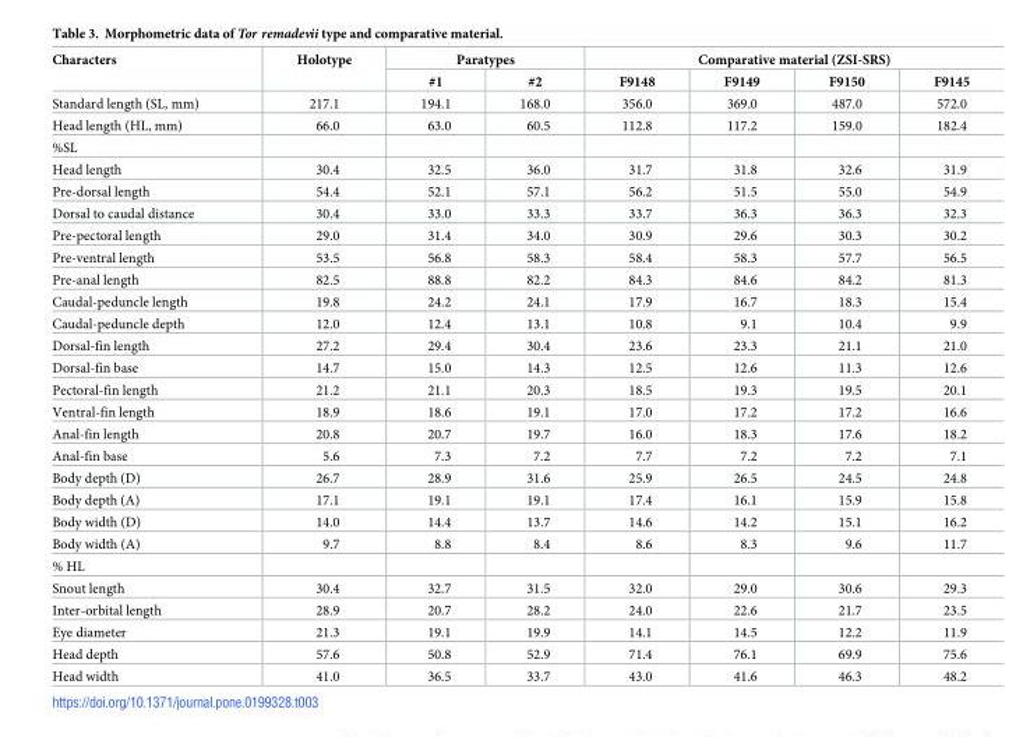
<table><thead><tr><td rowspan="2">Characters</td><td rowspan="2">Holotype</td><td colspan="2">Paratypes</td><td colspan="4">Comparative material (ZSI-SRS)</td></tr><tr><td>#1</td><td>#2</td><td>F9148</td><td>F9149</td><td>F9150</td><td>F9145</td></tr></thead><tbody><tr><td>Standard length (SL, mm)</td><td>217.1</td><td>194.1</td><td>168.0</td><td>356.0</td><td>369.0</td><td>487.0</td><td>572.0</td></tr><tr><td>Head length (HL, mm)</td><td>66.0</td><td>63.0</td><td>60.5</td><td>112.8</td><td>117.2</td><td>159.0</td><td>182.4</td></tr><tr><td colspan="8">%SL</td></tr><tr><td>Head length</td><td>30.4</td><td>32.5</td><td>36.0</td><td>31.7</td><td>31.8</td><td>32.6</td><td>31.9</td></tr><tr><td>Pre-dorsal length</td><td>54.4</td><td>52.1</td><td>57.1</td><td>56.2</td><td>51.5</td><td>55.0</td><td>54.9</td></tr><tr><td>Dorsal to caudal distance</td><td>30.4</td><td>33.0</td><td>33.3</td><td>33.7</td><td>36.3</td><td>36.3</td><td>32.3</td></tr><tr><td>Pre-pectoral length</td><td>29.0</td><td>31.4</td><td>34.0</td><td>30.9</td><td>29.6</td><td>30.3</td><td>30.2</td></tr><tr><td>Pre-ventral length</td><td>53.5</td><td>56.8</td><td>58.3</td><td>58.4</td><td>58.3</td><td>57.7</td><td>56.5</td></tr><tr><td>Pre-anal length</td><td>82.5</td><td>88.8</td><td>82.2</td><td>84.3</td><td>84.6</td><td>84.2</td><td>81.3</td></tr><tr><td>Caudal-peduncle length</td><td>19.8</td><td>24.2</td><td>24.1</td><td>17.9</td><td>16.7</td><td>18.3</td><td>15.4</td></tr><tr><td>Caudal-peduncle depth</td><td>12.0</td><td>12.4</td><td>13.1</td><td>10.8</td><td>9.1</td><td>10.4</td><td>9.9</td></tr><tr><td>Dorsal-fin length</td><td>27.2</td><td>29.4</td><td>30.4</td><td>23.6</td><td>23.3</td><td>21.1</td><td>21.0</td></tr><tr><td>Dorsal-fin base</td><td>14.7</td><td>15.0</td><td>14.3</td><td>12.5</td><td>12.6</td><td>11.3</td><td>12.6</td></tr><tr><td>Pectoral-fin length</td><td>21.2</td><td>21.1</td><td>20.3</td><td>18.5</td><td>19.3</td><td>19.5</td><td>20.1</td></tr><tr><td>Ventral-fin length</td><td>18.9</td><td>18.6</td><td>19.1</td><td>17.0</td><td>17.2</td><td>17.2</td><td>16.6</td></tr><tr><td>Anal-fin length</td><td>20.8</td><td>20.7</td><td>19.7</td><td>16.0</td><td>18.3</td><td>17.6</td><td>18.2</td></tr><tr><td>Anal-fin base</td><td>5.6</td><td>7.3</td><td>7.2</td><td>7.7</td><td>7.2</td><td>7.2</td><td>7.1</td></tr><tr><td>Body depth (D)</td><td>26.7</td><td>28.9</td><td>31.6</td><td>25.9</td><td>26.5</td><td>24.5</td><td>24.8</td></tr><tr><td>Body depth (A)</td><td>17.1</td><td>19.1</td><td>19.1</td><td>17.4</td><td>16.1</td><td>15.9</td><td>15.8</td></tr><tr><td>Body width (D)</td><td>14.0</td><td>14.4</td><td>13.7</td><td>14.6</td><td>14.2</td><td>15.1</td><td>16.2</td></tr><tr><td>Body width (A)</td><td>9.7</td><td>8.8</td><td>8.4</td><td>8.6</td><td>8.3</td><td>9.6</td><td>11.7</td></tr><tr><td colspan="8">% HL</td></tr><tr><td>Snout length</td><td>30.4</td><td>32.7</td><td>31.5</td><td>32.0</td><td>29.0</td><td>30.6</td><td>29.3</td></tr><tr><td>Inter-orbital length</td><td>28.9</td><td>20.7</td><td>28.2</td><td>24.0</td><td>22.6</td><td>21.7</td><td>23.5</td></tr><tr><td>Eye diameter</td><td>21.3</td><td>19.1</td><td>19.9</td><td>14.1</td><td>14.5</td><td>12.2</td><td>11.9</td></tr><tr><td>Head depth</td><td>57.6</td><td>50.8</td><td>52.9</td><td>71.4</td><td>76.1</td><td>69.9</td><td>75.6</td></tr><tr><td>Head width</td><td>41.0</td><td>36.5</td><td>33.7</td><td>43.0</td><td>41.6</td><td>46.3</td><td>48.2</td></tr></tbody></table>